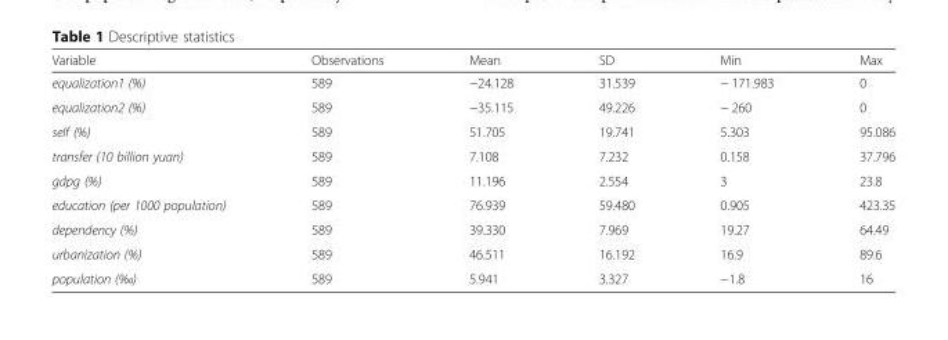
<table><thead><tr><td>Variable</td><td>Observations</td><td>Mean</td><td>SD</td><td>Min</td><td>Max</td></tr></thead><tbody><tr><td>equalization1 (%)</td><td>589</td><td>−24.128</td><td>31.539</td><td>− 171.983</td><td>0</td></tr><tr><td>equalization2 (%)</td><td>589</td><td>−35.115</td><td>49.226</td><td>− 260</td><td>0</td></tr><tr><td>self (%)</td><td>589</td><td>51.705</td><td>19.741</td><td>5.303</td><td>95.086</td></tr><tr><td>transfer (10 billion yuan)</td><td>589</td><td>7.108</td><td>7.232</td><td>0.158</td><td>37.796</td></tr><tr><td>gdpg (%)</td><td>589</td><td>11.196</td><td>2.554</td><td>3</td><td>23.8</td></tr><tr><td>education (per 1000 population)</td><td>589</td><td>76.939</td><td>59.480</td><td>0.905</td><td>423.35</td></tr><tr><td>dependency (%)</td><td>589</td><td>39.330</td><td>7.969</td><td>19.27</td><td>64.49</td></tr><tr><td>urbanization (%)</td><td>589</td><td>46.511</td><td>16.192</td><td>16.9</td><td>89.6</td></tr><tr><td>population (‰)</td><td>589</td><td>5.941</td><td>3.327</td><td>−1.8</td><td>16</td></tr></tbody></table>